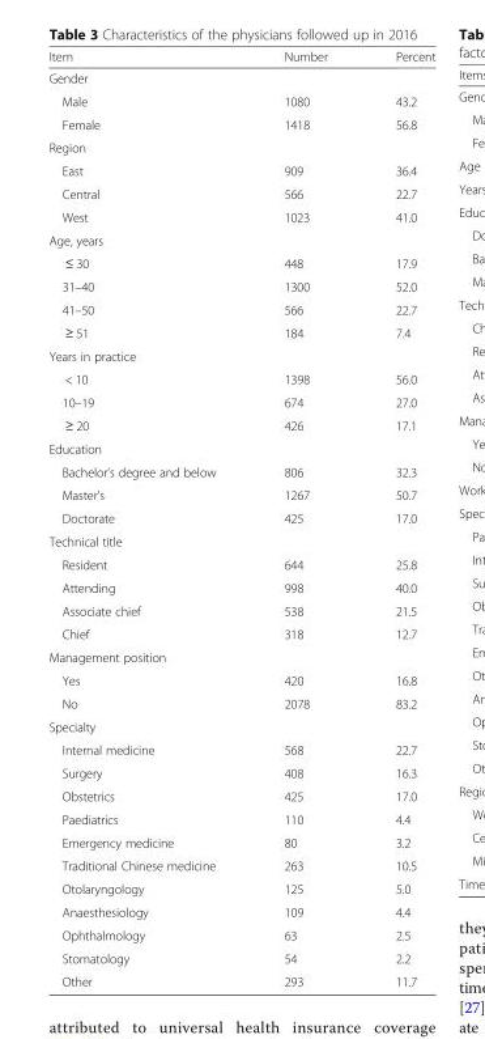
<table><thead><tr><td>Item</td><td>Number</td><td>Percent</td></tr></thead><tbody><tr><td colspan="3">Gender</td></tr><tr><td>Male</td><td>1080</td><td>43.2</td></tr><tr><td>Female</td><td>1418</td><td>56.8</td></tr><tr><td colspan="3">Region</td></tr><tr><td>East</td><td>909</td><td>36.4</td></tr><tr><td>Central</td><td>566</td><td>22.7</td></tr><tr><td>West</td><td>1023</td><td>41.0</td></tr><tr><td colspan="3">Age, years</td></tr><tr><td>≤ 30</td><td>448</td><td>17.9</td></tr><tr><td>31–40</td><td>1300</td><td>52.0</td></tr><tr><td>41–50</td><td>566</td><td>22.7</td></tr><tr><td>≥ 51</td><td>184</td><td>7.4</td></tr><tr><td colspan="3">Years in practice</td></tr><tr><td>&lt; 10</td><td>1398</td><td>56.0</td></tr><tr><td>10–19</td><td>674</td><td>27.0</td></tr><tr><td>≥ 20</td><td>426</td><td>17.1</td></tr><tr><td colspan="3">Education</td></tr><tr><td>Bachelor’s degree and below</td><td>806</td><td>32.3</td></tr><tr><td>Master’s</td><td>1267</td><td>50.7</td></tr><tr><td>Doctorate</td><td>425</td><td>17.0</td></tr><tr><td colspan="3">Technical title</td></tr><tr><td>Resident</td><td>644</td><td>25.8</td></tr><tr><td>Attending</td><td>998</td><td>40.0</td></tr><tr><td>Associate chief</td><td>538</td><td>21.5</td></tr><tr><td>Chief</td><td>318</td><td>12.7</td></tr><tr><td colspan="3">Management position</td></tr><tr><td>Yes</td><td>420</td><td>16.8</td></tr><tr><td>No</td><td>2078</td><td>83.2</td></tr><tr><td colspan="3">Specialty</td></tr><tr><td>Internal medicine</td><td>568</td><td>22.7</td></tr><tr><td>Surgery</td><td>408</td><td>16.3</td></tr><tr><td>Obstetrics</td><td>425</td><td>17.0</td></tr><tr><td>Paediatrics</td><td>110</td><td>4.4</td></tr><tr><td>Emergency medicine</td><td>80</td><td>3.2</td></tr><tr><td>Traditional Chinese medicine</td><td>263</td><td>10.5</td></tr><tr><td>Otolaryngology</td><td>125</td><td>5.0</td></tr><tr><td>Anaesthesiology</td><td>109</td><td>4.4</td></tr><tr><td>Ophthalmology</td><td>63</td><td>2.5</td></tr><tr><td>Stomatology</td><td>54</td><td>2.2</td></tr><tr><td>Other</td><td>293</td><td>11.7</td></tr></tbody></table>